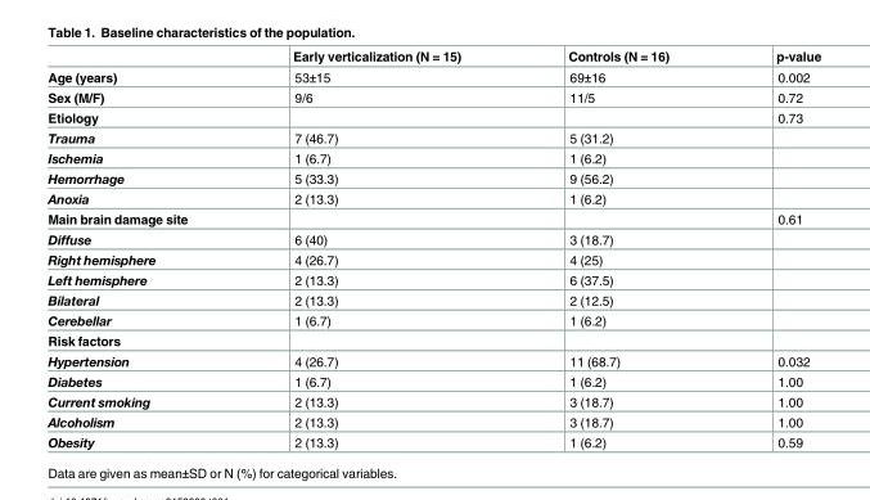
<table><thead><tr><td></td><td>Early verticalization (N = 15)</td><td>Controls (N = 16)</td><td>p-value</td></tr></thead><tbody><tr><td>Age (years)</td><td>53±15</td><td>69±16</td><td>0.002</td></tr><tr><td>Sex (M/F)</td><td>9/6</td><td>11/5</td><td>0.72</td></tr><tr><td>Etiology</td><td></td><td></td><td>0.73</td></tr><tr><td>Trauma</td><td>7 (46.7)</td><td>5 (31.2)</td><td></td></tr><tr><td>Ischemia</td><td>1 (6.7)</td><td>1 (6.2)</td><td></td></tr><tr><td>Hemorrhage</td><td>5 (33.3)</td><td>9 (56.2)</td><td></td></tr><tr><td>Anoxia</td><td>2 (13.3)</td><td>1 (6.2)</td><td></td></tr><tr><td>Main brain damage site</td><td></td><td></td><td>0.61</td></tr><tr><td>Diffuse</td><td>6 (40)</td><td>3 (18.7)</td><td></td></tr><tr><td>Right hemisphere</td><td>4 (26.7)</td><td>4 (25)</td><td></td></tr><tr><td>Left hemisphere</td><td>2 (13.3)</td><td>6 (37.5)</td><td></td></tr><tr><td>Bilateral</td><td>2 (13.3)</td><td>2 (12.5)</td><td></td></tr><tr><td>Cerebellar</td><td>1 (6.7)</td><td>1 (6.2)</td><td></td></tr><tr><td colspan="4">Risk factors</td></tr><tr><td>Hypertension</td><td>4 (26.7)</td><td>11 (68.7)</td><td>0.032</td></tr><tr><td>Diabetes</td><td>1 (6.7)</td><td>1 (6.2)</td><td>1.00</td></tr><tr><td>Current smoking</td><td>2 (13.3)</td><td>3 (18.7)</td><td>1.00</td></tr><tr><td>Alcoholism</td><td>2 (13.3)</td><td>3 (18.7)</td><td>1.00</td></tr><tr><td>Obesity</td><td>2 (13.3)</td><td>1 (6.2)</td><td>0.59</td></tr></tbody></table>